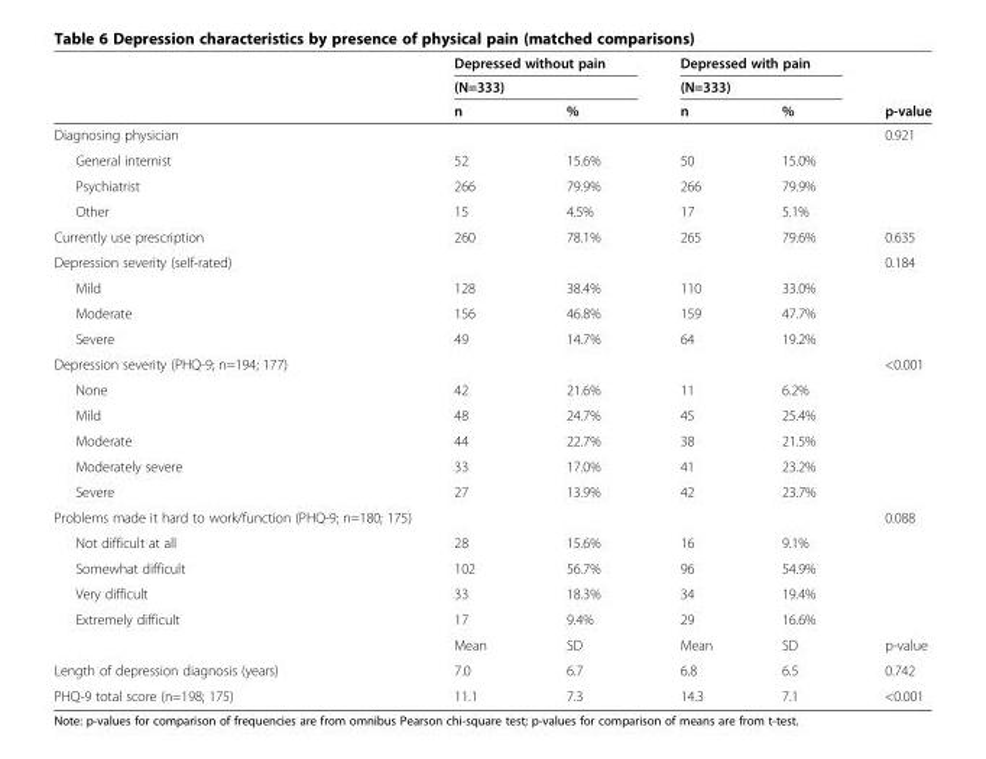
<table><thead><tr><td rowspan="3"></td><td rowspan="2" colspan="2">Depressed without pain (N=333)</td><td rowspan="2" colspan="2">Depressed with pain (N=333)</td><td rowspan="3">p-value</td></tr><tr></tr><tr><td>n</td><td>%</td><td>n</td><td>%</td></tr></thead><tbody><tr><td>Diagnosing physician</td><td></td><td></td><td></td><td></td><td>0.921</td></tr><tr><td>General internist</td><td>52</td><td>15.6%</td><td>50</td><td>15.0%</td><td></td></tr><tr><td>Psychiatrist</td><td>266</td><td>79.9%</td><td>266</td><td>79.9%</td><td></td></tr><tr><td>Other</td><td>15</td><td>4.5%</td><td>17</td><td>5.1%</td><td></td></tr><tr><td>Currently use prescription</td><td>260</td><td>78.1%</td><td>265</td><td>79.6%</td><td>0.635</td></tr><tr><td>Depression severity (self-rated)</td><td></td><td></td><td></td><td></td><td>0.184</td></tr><tr><td>Mild</td><td>128</td><td>38.4%</td><td>110</td><td>33.0%</td><td></td></tr><tr><td>Moderate</td><td>156</td><td>46.8%</td><td>159</td><td>47.7%</td><td></td></tr><tr><td>Severe</td><td>49</td><td>14.7%</td><td>64</td><td>19.2%</td><td></td></tr><tr><td>Depression severity (PHQ-9; n=194; 177)</td><td></td><td></td><td></td><td></td><td>&lt;0.001</td></tr><tr><td>None</td><td>42</td><td>21.6%</td><td>11</td><td>6.2%</td><td></td></tr><tr><td>Mild</td><td>48</td><td>24.7%</td><td>45</td><td>25.4%</td><td></td></tr><tr><td>Moderate</td><td>44</td><td>22.7%</td><td>38</td><td>21.5%</td><td></td></tr><tr><td>Moderately severe</td><td>33</td><td>17.0%</td><td>41</td><td>23.2%</td><td></td></tr><tr><td>Severe</td><td>27</td><td>13.9%</td><td>42</td><td>23.7%</td><td></td></tr><tr><td>Problems made it hard to work/function (PHQ-9; n=180; 175)</td><td></td><td></td><td></td><td></td><td>0.088</td></tr><tr><td>Not difficult at all</td><td>28</td><td>15.6%</td><td>16</td><td>9.1%</td><td></td></tr><tr><td>Somewhat difficult</td><td>102</td><td>56.7%</td><td>96</td><td>54.9%</td><td></td></tr><tr><td>Very difficult</td><td>33</td><td>18.3%</td><td>34</td><td>19.4%</td><td></td></tr><tr><td rowspan="2">Extremely difficult</td><td>17</td><td>9.4%</td><td>29</td><td>16.6%</td><td></td></tr><tr><td>Mean</td><td>SD</td><td>Mean</td><td>SD</td><td>p-value</td></tr><tr><td>Length of depression diagnosis (years)</td><td>7.0</td><td>6.7</td><td>6.8</td><td>6.5</td><td>0.742</td></tr><tr><td>PHQ-9 total score (n=198; 175)</td><td>11.1</td><td>7.3</td><td>14.3</td><td>7.1</td><td>&lt;0.001</td></tr></tbody></table>